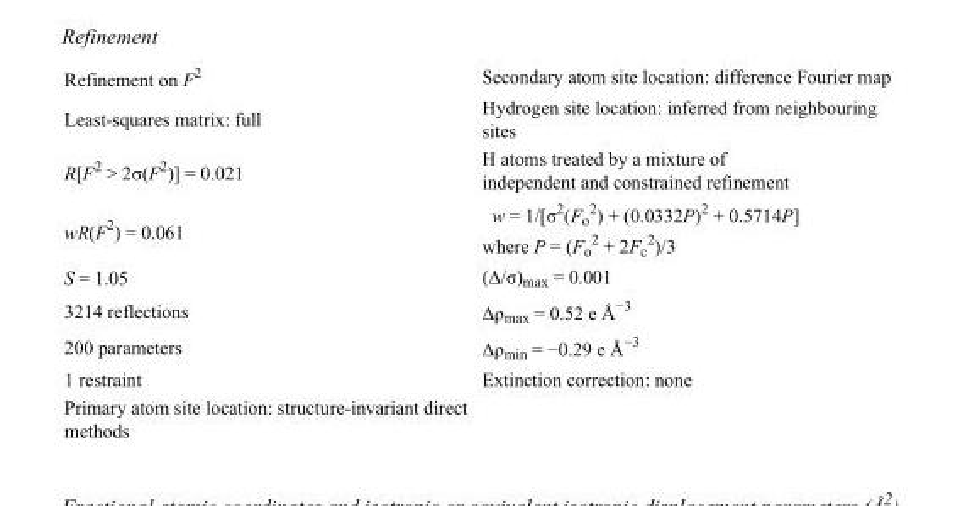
<table><tbody><tr><td>Refinement on F<sup>2</sup></td><td>Secondary atom site location: difference Fourier map</td></tr><tr><td>Least-squares matrix: full</td><td>Hydrogen site location: inferred from neighbouring sites</td></tr><tr><td>R[F<sup>2</sup> &gt; 2σ(F<sup>2</sup>)] = 0.021</td><td>H atoms treated by a mixture of independent and constrained refinement</td></tr><tr><td>wR(F<sup>2</sup>) = 0.061</td><td>w = 1/[σ<sup>2</sup>(F<sub>o</sub> <sup>2</sup>) + (0.0332P)<sup>2</sup> + 0.5714P] where P = (F<sub>o</sub> <sup>2</sup> + 2F<sub>c</sub> <sup>2</sup>)/3</td></tr><tr><td>S = 1.05</td><td>(Δ/σ)<sub>max</sub> = 0.001</td></tr><tr><td>3214 reflections</td><td>Δρ<sub>max</sub> = 0.52 e Å<sup>−3</sup></td></tr><tr><td>200 parameters</td><td>Δρ<sub>min</sub> = −0.29 e Å<sup>−3</sup></td></tr><tr><td>1 restraint</td><td>Extinction correction: none</td></tr><tr><td>Primary atom site location: structure-invariant direct methods</td><td></td></tr></tbody></table>